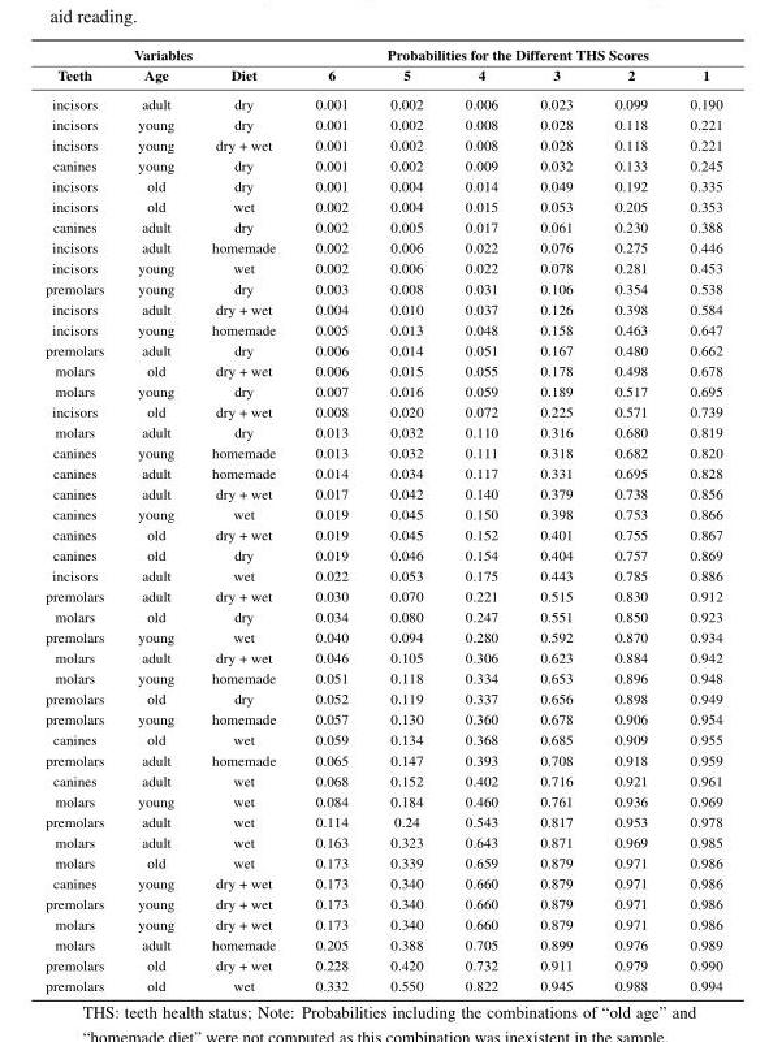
<table><thead><tr><td colspan="3">Variables</td><td colspan="6">Probabilities for the Different THS Scores</td></tr><tr><td>Teeth</td><td>Age</td><td>Diet</td><td>6</td><td>5</td><td>4</td><td>3</td><td>2</td><td>1</td></tr></thead><tbody><tr><td>incisors</td><td>adult</td><td>dry</td><td>0.001</td><td>0.002</td><td>0.006</td><td>0.023</td><td>0.099</td><td>0.190</td></tr><tr><td>incisors</td><td>young</td><td>dry</td><td>0.001</td><td>0.002</td><td>0.008</td><td>0.028</td><td>0.118</td><td>0.221</td></tr><tr><td>incisors</td><td>young</td><td>dry + wet</td><td>0.001</td><td>0.002</td><td>0.008</td><td>0.028</td><td>0.118</td><td>0.221</td></tr><tr><td>canines</td><td>young</td><td>dry</td><td>0.001</td><td>0.002</td><td>0.009</td><td>0.032</td><td>0.133</td><td>0.245</td></tr><tr><td>incisors</td><td>old</td><td>dry</td><td>0.001</td><td>0.004</td><td>0.014</td><td>0.049</td><td>0.192</td><td>0.335</td></tr><tr><td>incisors</td><td>old</td><td>wet</td><td>0.002</td><td>0.004</td><td>0.015</td><td>0.053</td><td>0.205</td><td>0.353</td></tr><tr><td>canines</td><td>adult</td><td>dry</td><td>0.002</td><td>0.005</td><td>0.017</td><td>0.061</td><td>0.230</td><td>0.388</td></tr><tr><td>incisors</td><td>adult</td><td>homemade</td><td>0.002</td><td>0.006</td><td>0.022</td><td>0.076</td><td>0.275</td><td>0.446</td></tr><tr><td>incisors</td><td>young</td><td>wet</td><td>0.002</td><td>0.006</td><td>0.022</td><td>0.078</td><td>0.281</td><td>0.453</td></tr><tr><td>premolars</td><td>young</td><td>dry</td><td>0.003</td><td>0.008</td><td>0.031</td><td>0.106</td><td>0.354</td><td>0.538</td></tr><tr><td>incisors</td><td>adult</td><td>dry + wet</td><td>0.004</td><td>0.010</td><td>0.037</td><td>0.126</td><td>0.398</td><td>0.584</td></tr><tr><td>incisors</td><td>young</td><td>homemade</td><td>0.005</td><td>0.013</td><td>0.048</td><td>0.158</td><td>0.463</td><td>0.647</td></tr><tr><td>premolars</td><td>adult</td><td>dry</td><td>0.006</td><td>0.014</td><td>0.051</td><td>0.167</td><td>0.480</td><td>0.662</td></tr><tr><td>molars</td><td>old</td><td>dry + wet</td><td>0.006</td><td>0.015</td><td>0.055</td><td>0.178</td><td>0.498</td><td>0.678</td></tr><tr><td>molars</td><td>young</td><td>dry</td><td>0.007</td><td>0.016</td><td>0.059</td><td>0.189</td><td>0.517</td><td>0.695</td></tr><tr><td>incisors</td><td>old</td><td>dry + wet</td><td>0.008</td><td>0.020</td><td>0.072</td><td>0.225</td><td>0.571</td><td>0.739</td></tr><tr><td>molars</td><td>adult</td><td>dry</td><td>0.013</td><td>0.032</td><td>0.110</td><td>0.316</td><td>0.680</td><td>0.819</td></tr><tr><td>canines</td><td>young</td><td>homemade</td><td>0.013</td><td>0.032</td><td>0.111</td><td>0.318</td><td>0.682</td><td>0.820</td></tr><tr><td>canines</td><td>adult</td><td>homemade</td><td>0.014</td><td>0.034</td><td>0.117</td><td>0.331</td><td>0.695</td><td>0.828</td></tr><tr><td>canines</td><td>adult</td><td>dry + wet</td><td>0.017</td><td>0.042</td><td>0.140</td><td>0.379</td><td>0.738</td><td>0.856</td></tr><tr><td>canines</td><td>young</td><td>wet</td><td>0.019</td><td>0.045</td><td>0.150</td><td>0.398</td><td>0.753</td><td>0.866</td></tr><tr><td>canines</td><td>old</td><td>dry + wet</td><td>0.019</td><td>0.045</td><td>0.152</td><td>0.401</td><td>0.755</td><td>0.867</td></tr><tr><td>canines</td><td>old</td><td>dry</td><td>0.019</td><td>0.046</td><td>0.154</td><td>0.404</td><td>0.757</td><td>0.869</td></tr><tr><td>incisors</td><td>adult</td><td>wet</td><td>0.022</td><td>0.053</td><td>0.175</td><td>0.443</td><td>0.785</td><td>0.886</td></tr><tr><td>premolars</td><td>adult</td><td>dry + wet</td><td>0.030</td><td>0.070</td><td>0.221</td><td>0.515</td><td>0.830</td><td>0.912</td></tr><tr><td>molars</td><td>old</td><td>dry</td><td>0.034</td><td>0.080</td><td>0.247</td><td>0.551</td><td>0.850</td><td>0.923</td></tr><tr><td>premolars</td><td>young</td><td>wet</td><td>0.040</td><td>0.094</td><td>0.280</td><td>0.592</td><td>0.870</td><td>0.934</td></tr><tr><td>molars</td><td>adult</td><td>dry + wet</td><td>0.046</td><td>0.105</td><td>0.306</td><td>0.623</td><td>0.884</td><td>0.942</td></tr><tr><td>molars</td><td>young</td><td>homemade</td><td>0.051</td><td>0.118</td><td>0.334</td><td>0.653</td><td>0.896</td><td>0.948</td></tr><tr><td>premolars</td><td>old</td><td>dry</td><td>0.052</td><td>0.119</td><td>0.337</td><td>0.656</td><td>0.898</td><td>0.949</td></tr><tr><td>premolars</td><td>young</td><td>homemade</td><td>0.057</td><td>0.130</td><td>0.360</td><td>0.678</td><td>0.906</td><td>0.954</td></tr><tr><td>canines</td><td>old</td><td>wet</td><td>0.059</td><td>0.134</td><td>0.368</td><td>0.685</td><td>0.909</td><td>0.955</td></tr><tr><td>premolars</td><td>adult</td><td>homemade</td><td>0.065</td><td>0.147</td><td>0.393</td><td>0.708</td><td>0.918</td><td>0.959</td></tr><tr><td>canines</td><td>adult</td><td>wet</td><td>0.068</td><td>0.152</td><td>0.402</td><td>0.716</td><td>0.921</td><td>0.961</td></tr><tr><td>molars</td><td>young</td><td>wet</td><td>0.084</td><td>0.184</td><td>0.460</td><td>0.761</td><td>0.936</td><td>0.969</td></tr><tr><td>premolars</td><td>adult</td><td>wet</td><td>0.114</td><td>0.24</td><td>0.543</td><td>0.817</td><td>0.953</td><td>0.978</td></tr><tr><td>molars</td><td>adult</td><td>wet</td><td>0.163</td><td>0.323</td><td>0.643</td><td>0.871</td><td>0.969</td><td>0.985</td></tr><tr><td>molars</td><td>old</td><td>wet</td><td>0.173</td><td>0.339</td><td>0.659</td><td>0.879</td><td>0.971</td><td>0.986</td></tr><tr><td>canines</td><td>young</td><td>dry + wet</td><td>0.173</td><td>0.340</td><td>0.660</td><td>0.879</td><td>0.971</td><td>0.986</td></tr><tr><td>premolars</td><td>young</td><td>dry + wet</td><td>0.173</td><td>0.340</td><td>0.660</td><td>0.879</td><td>0.971</td><td>0.986</td></tr><tr><td>molars</td><td>young</td><td>dry + wet</td><td>0.173</td><td>0.340</td><td>0.660</td><td>0.879</td><td>0.971</td><td>0.986</td></tr><tr><td>molars</td><td>adult</td><td>homemade</td><td>0.205</td><td>0.388</td><td>0.705</td><td>0.899</td><td>0.976</td><td>0.989</td></tr><tr><td>premolars</td><td>old</td><td>dry + wet</td><td>0.228</td><td>0.420</td><td>0.732</td><td>0.911</td><td>0.979</td><td>0.990</td></tr><tr><td>premolars</td><td>old</td><td>wet</td><td>0.332</td><td>0.550</td><td>0.822</td><td>0.945</td><td>0.988</td><td>0.994</td></tr></tbody></table>